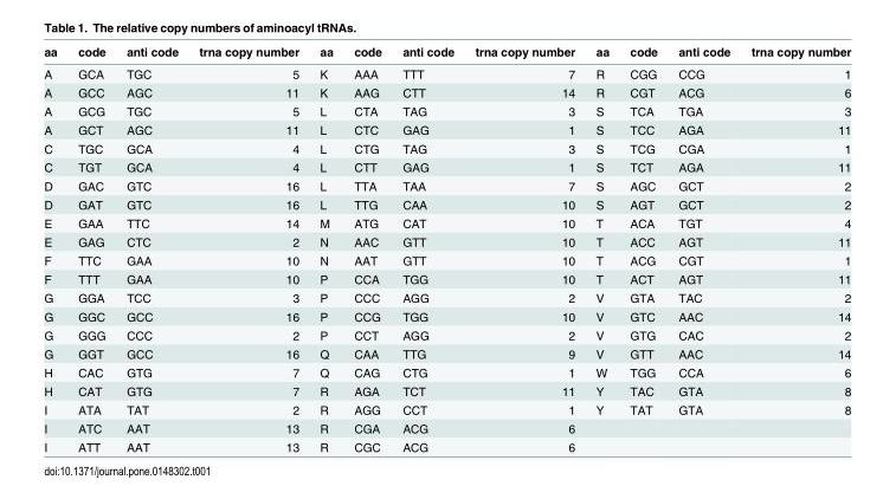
<table><thead><tr><td>aa</td><td>code</td><td>anti code</td><td>trna copy number</td><td>aa</td><td>code</td><td>anti code</td><td>trna copy number</td><td>aa</td><td>code</td><td>anti code</td><td>trna copy number</td></tr></thead><tbody><tr><td>A</td><td>GCA</td><td>TGC</td><td>5</td><td>K</td><td>AAA</td><td>TTT</td><td>7</td><td>R</td><td>CGG</td><td>CCG</td><td>1</td></tr><tr><td>A</td><td>GCC</td><td>AGC</td><td>11</td><td>K</td><td>AAG</td><td>CTT</td><td>14</td><td>R</td><td>CGT</td><td>ACG</td><td>6</td></tr><tr><td>A</td><td>GCG</td><td>TGC</td><td>5</td><td>L</td><td>CTA</td><td>TAG</td><td>3</td><td>S</td><td>TCA</td><td>TGA</td><td>3</td></tr><tr><td>A</td><td>GCT</td><td>AGC</td><td>11</td><td>L</td><td>CTC</td><td>GAG</td><td>1</td><td>S</td><td>TCC</td><td>AGA</td><td>11</td></tr><tr><td>C</td><td>TGC</td><td>GCA</td><td>4</td><td>L</td><td>CTG</td><td>TAG</td><td>3</td><td>S</td><td>TCG</td><td>CGA</td><td>1</td></tr><tr><td>C</td><td>TGT</td><td>GCA</td><td>4</td><td>L</td><td>CTT</td><td>GAG</td><td>1</td><td>S</td><td>TCT</td><td>AGA</td><td>11</td></tr><tr><td>D</td><td>GAC</td><td>GTC</td><td>16</td><td>L</td><td>TTA</td><td>TAA</td><td>7</td><td>S</td><td>AGC</td><td>GCT</td><td>2</td></tr><tr><td>D</td><td>GAT</td><td>GTC</td><td>16</td><td>L</td><td>TTG</td><td>CAA</td><td>10</td><td>S</td><td>AGT</td><td>GCT</td><td>2</td></tr><tr><td>E</td><td>GAA</td><td>TTC</td><td>14</td><td>M</td><td>ATG</td><td>CAT</td><td>10</td><td>T</td><td>ACA</td><td>TGT</td><td>4</td></tr><tr><td>E</td><td>GAG</td><td>CTC</td><td>2</td><td>N</td><td>AAC</td><td>GTT</td><td>10</td><td>T</td><td>ACC</td><td>AGT</td><td>11</td></tr><tr><td>F</td><td>TTC</td><td>GAA</td><td>10</td><td>N</td><td>AAT</td><td>GTT</td><td>10</td><td>T</td><td>ACG</td><td>CGT</td><td>1</td></tr><tr><td>F</td><td>TTT</td><td>GAA</td><td>10</td><td>P</td><td>CCA</td><td>TGG</td><td>10</td><td>T</td><td>ACT</td><td>AGT</td><td>11</td></tr><tr><td>G</td><td>GGA</td><td>TCC</td><td>3</td><td>P</td><td>CCC</td><td>AGG</td><td>2</td><td>V</td><td>GTA</td><td>TAC</td><td>2</td></tr><tr><td>G</td><td>GGC</td><td>GCC</td><td>16</td><td>P</td><td>CCG</td><td>TGG</td><td>10</td><td>V</td><td>GTC</td><td>AAC</td><td>14</td></tr><tr><td>G</td><td>GGG</td><td>CCC</td><td>2</td><td>P</td><td>CCT</td><td>AGG</td><td>2</td><td>V</td><td>GTG</td><td>CAC</td><td>2</td></tr><tr><td>G</td><td>GGT</td><td>GCC</td><td>16</td><td>Q</td><td>CAA</td><td>TTG</td><td>9</td><td>V</td><td>GTT</td><td>AAC</td><td>14</td></tr><tr><td>H</td><td>CAC</td><td>GTG</td><td>7</td><td>Q</td><td>CAG</td><td>CTG</td><td>1</td><td>W</td><td>TGG</td><td>CCA</td><td>6</td></tr><tr><td>H</td><td>CAT</td><td>GTG</td><td>7</td><td>R</td><td>AGA</td><td>TCT</td><td>11</td><td>Y</td><td>TAC</td><td>GTA</td><td>8</td></tr><tr><td>I</td><td>ATA</td><td>TAT</td><td>2</td><td>R</td><td>AGG</td><td>CCT</td><td>1</td><td>Y</td><td>TAT</td><td>GTA</td><td>8</td></tr><tr><td>I</td><td>ATC</td><td>AAT</td><td>13</td><td>R</td><td>CGA</td><td>ACG</td><td>6</td><td></td><td></td><td></td><td></td></tr><tr><td>I</td><td>ATT</td><td>AAT</td><td>13</td><td>R</td><td>CGC</td><td>ACG</td><td>6</td><td></td><td></td><td></td><td></td></tr></tbody></table>